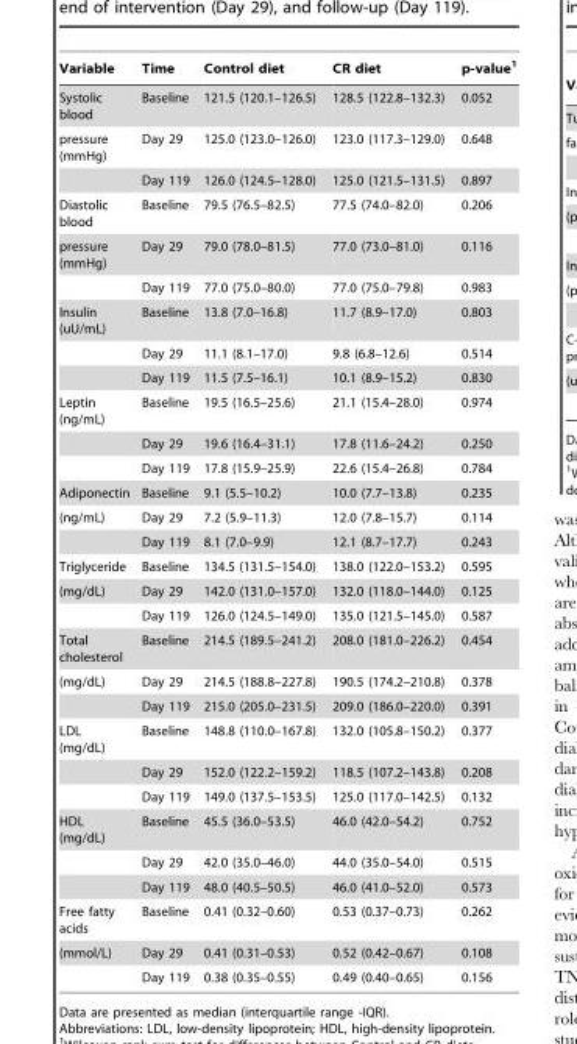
<table><thead><tr><td>Variable</td><td>Time</td><td>Control diet</td><td>CR diet</td><td>p-value<sup>1</sup></td></tr></thead><tbody><tr><td>Systolic blood</td><td>Baseline</td><td>121.5 (120.1–126.5)</td><td>128.5 (122.8–132.3)</td><td>0.052</td></tr><tr><td rowspan="2">pressure (mmHg)</td><td>Day 29</td><td>125.0 (123.0–126.0)</td><td>123.0 (117.3–129.0)</td><td>0.648</td></tr><tr><td>Day 119</td><td>126.0 (124.5–128.0)</td><td>125.0 (121.5–131.5)</td><td>0.897</td></tr><tr><td>Diastolic blood</td><td>Baseline</td><td>79.5 (76.5–82.5)</td><td>77.5 (74.0–82.0)</td><td>0.206</td></tr><tr><td rowspan="2">pressure (mmHg)</td><td>Day 29</td><td>79.0 (78.0–81.5)</td><td>77.0 (73.0–81.0)</td><td>0.116</td></tr><tr><td>Day 119</td><td>77.0 (75.0–80.0)</td><td>77.0 (75.0–79.8)</td><td>0.983</td></tr><tr><td rowspan="3">Insulin (uU/mL)</td><td>Baseline</td><td>13.8 (7.0–16.8)</td><td>11.7 (8.9–17.0)</td><td>0.803</td></tr><tr><td>Day 29</td><td>11.1 (8.1–17.0)</td><td>9.8 (6.8–12.6)</td><td>0.514</td></tr><tr><td>Day 119</td><td>11.5 (7.5–16.1)</td><td>10.1 (8.9–15.2)</td><td>0.830</td></tr><tr><td rowspan="3">Leptin (ng/mL)</td><td>Baseline</td><td>19.5 (16.5–25.6)</td><td>21.1 (15.4–28.0)</td><td>0.974</td></tr><tr><td>Day 29</td><td>19.6 (16.4–31.1)</td><td>17.8 (11.6–24.2)</td><td>0.250</td></tr><tr><td>Day 119</td><td>17.8 (15.9–25.9)</td><td>22.6 (15.4–26.8)</td><td>0.784</td></tr><tr><td>Adiponectin</td><td>Baseline</td><td>9.1 (5.5–10.2)</td><td>10.0 (7.7–13.8)</td><td>0.235</td></tr><tr><td rowspan="2">(ng/mL)</td><td>Day 29</td><td>7.2 (5.9–11.3)</td><td>12.0 (7.8–15.7)</td><td>0.114</td></tr><tr><td>Day 119</td><td>8.1 (7.0–9.9)</td><td>12.1 (8.7–17.7)</td><td>0.243</td></tr><tr><td>Triglyceride</td><td>Baseline</td><td>134.5 (131.5–154.0)</td><td>138.0 (122.0–153.2)</td><td>0.595</td></tr><tr><td rowspan="2">(mg/dL)</td><td>Day 29</td><td>142.0 (131.0–157.0)</td><td>132.0 (118.0–144.0)</td><td>0.125</td></tr><tr><td>Day 119</td><td>126.0 (124.5–149.0)</td><td>135.0 (121.5–145.0)</td><td>0.587</td></tr><tr><td>Total cholesterol</td><td>Baseline</td><td>214.5 (189.5–241.2)</td><td>208.0 (181.0–226.2)</td><td>0.454</td></tr><tr><td rowspan="2">(mg/dL)</td><td>Day 29</td><td>214.5 (188.8–227.8)</td><td>190.5 (174.2–210.8)</td><td>0.378</td></tr><tr><td>Day 119</td><td>215.0 (205.0–231.5)</td><td>209.0 (186.0–220.0)</td><td>0.391</td></tr><tr><td rowspan="3">LDL (mg/dL)</td><td>Baseline</td><td>148.8 (110.0–167.8)</td><td>132.0 (105.8–150.2)</td><td>0.377</td></tr><tr><td>Day 29</td><td>152.0 (122.2–159.2)</td><td>118.5 (107.2–143.8)</td><td>0.208</td></tr><tr><td>Day 119</td><td>149.0 (137.5–153.5)</td><td>125.0 (117.0–142.5)</td><td>0.132</td></tr><tr><td rowspan="3">HDL (mg/dL)</td><td>Baseline</td><td>45.5 (36.0–53.5)</td><td>46.0 (42.0–54.2)</td><td>0.752</td></tr><tr><td>Day 29</td><td>42.0 (35.0–46.0)</td><td>44.0 (35.0–54.0)</td><td>0.515</td></tr><tr><td>Day 119</td><td>48.0 (40.5–50.5)</td><td>46.0 (41.0–52.0)</td><td>0.573</td></tr><tr><td>Free fatty acids</td><td>Baseline</td><td>0.41 (0.32–0.60)</td><td>0.53 (0.37–0.73)</td><td>0.262</td></tr><tr><td rowspan="2">(mmol/L)</td><td>Day 29</td><td>0.41 (0.31–0.53)</td><td>0.52 (0.42–0.67)</td><td>0.108</td></tr><tr><td>Day 119</td><td>0.38 (0.35–0.55)</td><td>0.49 (0.40–0.65)</td><td>0.156</td></tr></tbody></table>